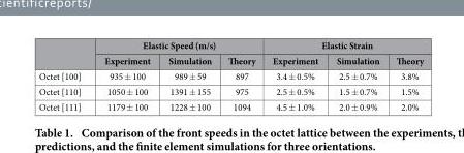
<table><thead><tr><td rowspan="2"></td><td colspan="3">Elastic Speed (m/s)</td><td colspan="3">Elastic Strain</td></tr><tr><td>Experiment</td><td>Simulation</td><td>Theory</td><td>Experiment</td><td>Simulation</td><td>Theory</td></tr></thead><tbody><tr><td>Octet [100]</td><td>935 ± 100</td><td>989 ± 59</td><td>897</td><td>3.4 ± 0.5%</td><td>2.5 ± 0.7%</td><td>3.8%</td></tr><tr><td>Octet [110]</td><td>1050 ± 100</td><td>1391 ± 155</td><td>975</td><td>2.5 ± 0.5%</td><td>1.5 ± 0.7%</td><td>1.5%</td></tr><tr><td>Octet [111]</td><td>1179 ± 100</td><td>1228 ± 100</td><td>1094</td><td>4.5 ± 1.0%</td><td>2.0 ± 0.9%</td><td>2.0%</td></tr></tbody></table>